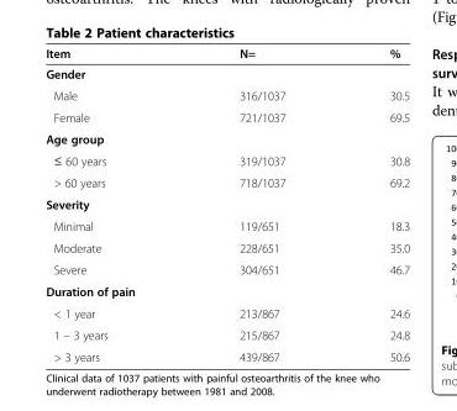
<table><thead><tr><td>Item</td><td>N=</td><td>%</td></tr></thead><tbody><tr><td colspan="3">Gender</td></tr><tr><td>Male</td><td>316/1037</td><td>30.5</td></tr><tr><td>Female</td><td>721/1037</td><td>69.5</td></tr><tr><td colspan="3">Age group</td></tr><tr><td>≤ 60 years</td><td>319/1037</td><td>30.8</td></tr><tr><td>&gt; 60 years</td><td>718/1037</td><td>69.2</td></tr><tr><td colspan="3">Severity</td></tr><tr><td>Minimal</td><td>119/651</td><td>18.3</td></tr><tr><td>Moderate</td><td>228/651</td><td>35.0</td></tr><tr><td>Severe</td><td>304/651</td><td>46.7</td></tr><tr><td colspan="3">Duration of pain</td></tr><tr><td>&lt; 1 year</td><td>213/867</td><td>24.6</td></tr><tr><td>1 – 3 years</td><td>215/867</td><td>24.8</td></tr><tr><td>&gt; 3 years</td><td>439/867</td><td>50.6</td></tr></tbody></table>